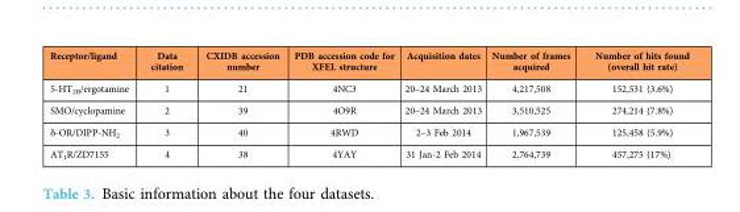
<table><thead><tr><td>Receptor/ligand</td><td>Data citation</td><td>CXIDB accession number</td><td>PDB accession code for XFEL structure</td><td>Acquisition dates</td><td>Number of frames acquired</td><td>Number of hits found (overall hit rate)</td></tr></thead><tbody><tr><td>5-HT<sub>2B</sub>/ergotamine</td><td>1</td><td>21</td><td>4NC3</td><td>20–24 March 2013</td><td>4,217,508</td><td>152,531 (3.6%)</td></tr><tr><td>SMO/cyclopamine</td><td>2</td><td>39</td><td>4O9R</td><td>20–24 March 2013</td><td>3,510,525</td><td>274,214 (7.8%)</td></tr><tr><td>δ-OR/DIPP-NH<sub>2</sub></td><td>3</td><td>40</td><td>4RWD</td><td>2–3 Feb 2014</td><td>1,967,539</td><td>125,458 (5.9%)</td></tr><tr><td>AT<sub>1</sub>R/ZD7155</td><td>4</td><td>38</td><td>4YAY</td><td>31 Jan-2 Feb 2014</td><td>2,764,739</td><td>457,275 (17%)</td></tr></tbody></table>